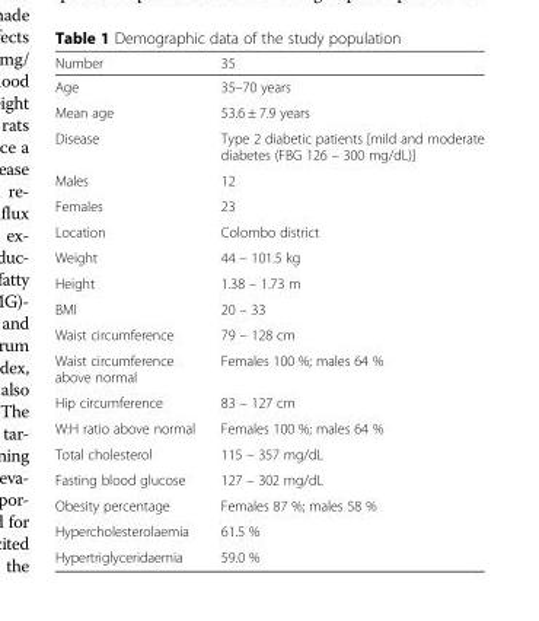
<table><thead><tr><td>Number</td><td>35</td></tr></thead><tbody><tr><td>Age</td><td>35–70 years</td></tr><tr><td>Mean age</td><td>53.6 ± 7.9 years</td></tr><tr><td>Disease</td><td>Type 2 diabetic patients [mild and moderate diabetes (FBG 126 – 300 mg/dL)]</td></tr><tr><td>Males</td><td>12</td></tr><tr><td>Females</td><td>23</td></tr><tr><td>Location</td><td>Colombo district</td></tr><tr><td>Weight</td><td>44 – 101.5 kg</td></tr><tr><td>Height</td><td>1.38 – 1.73 m</td></tr><tr><td>BMI</td><td>20 – 33</td></tr><tr><td>Waist circumference</td><td>79 – 128 cm</td></tr><tr><td>Waist circumference above normal</td><td>Females 100 %; males 64 %</td></tr><tr><td>Hip circumference</td><td>83 – 127 cm</td></tr><tr><td>W:H ratio above normal</td><td>Females 100 %; males 64 %</td></tr><tr><td>Total cholesterol</td><td>115 – 357 mg/dL</td></tr><tr><td>Fasting blood glucose</td><td>127 – 302 mg/dL</td></tr><tr><td>Obesity percentage</td><td>Females 87 %; males 58 %</td></tr><tr><td>Hypercholesterolaemia</td><td>61.5 %</td></tr><tr><td>Hypertriglyceridaemia</td><td>59.0 %</td></tr></tbody></table>